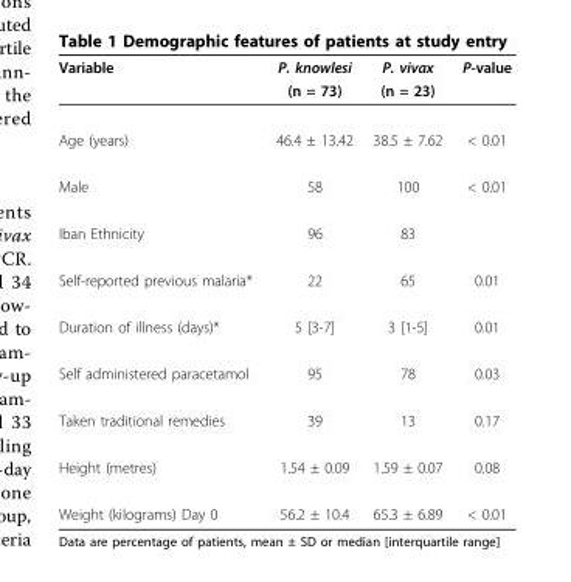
<table><thead><tr><td rowspan="2">Variable</td><td rowspan="2">P. knowlesi (n = 73)</td><td rowspan="2">P. vivax (n = 23)</td><td rowspan="2">P-value</td></tr><tr></tr></thead><tbody><tr><td>Age (years)</td><td>46.4 ± 13.42</td><td>38.5 ± 7.62</td><td>&lt; 0.01</td></tr><tr><td>Male</td><td>58</td><td>100</td><td>&lt; 0.01</td></tr><tr><td>Iban Ethnicity</td><td>96</td><td>83</td><td></td></tr><tr><td>Self-reported previous malaria*</td><td>22</td><td>65</td><td>0.01</td></tr><tr><td>Duration of illness (days)*</td><td>5 [3-7]</td><td>3 [1-5]</td><td>0.01</td></tr><tr><td>Self administered paracetamol</td><td>95</td><td>78</td><td>0.03</td></tr><tr><td>Taken traditional remedies</td><td>39</td><td>13</td><td>0.17</td></tr><tr><td>Height (metres)</td><td>1.54 ± 0.09</td><td>1.59 ± 0.07</td><td>0.08</td></tr><tr><td>Weight (kilograms) Day 0</td><td>56.2 ± 10.4</td><td>65.3 ± 6.89</td><td>&lt; 0.01</td></tr></tbody></table>